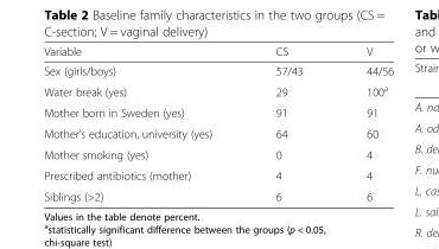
<table><thead><tr><td>Variable</td><td>CS</td><td>V</td></tr></thead><tbody><tr><td>Sex (girls/boys)</td><td>57/43</td><td>44/56</td></tr><tr><td>Water break (yes)</td><td>29</td><td>100<sup>a</sup></td></tr><tr><td>Mother born in Sweden (yes)</td><td>91</td><td>91</td></tr><tr><td>Mother’s education, university (yes)</td><td>64</td><td>60</td></tr><tr><td>Mother smoking (yes)</td><td>0</td><td>4</td></tr><tr><td>Prescribed antibiotics (mother)</td><td>4</td><td>4</td></tr><tr><td>Siblings (&gt;2)</td><td>6</td><td>6</td></tr></tbody></table>